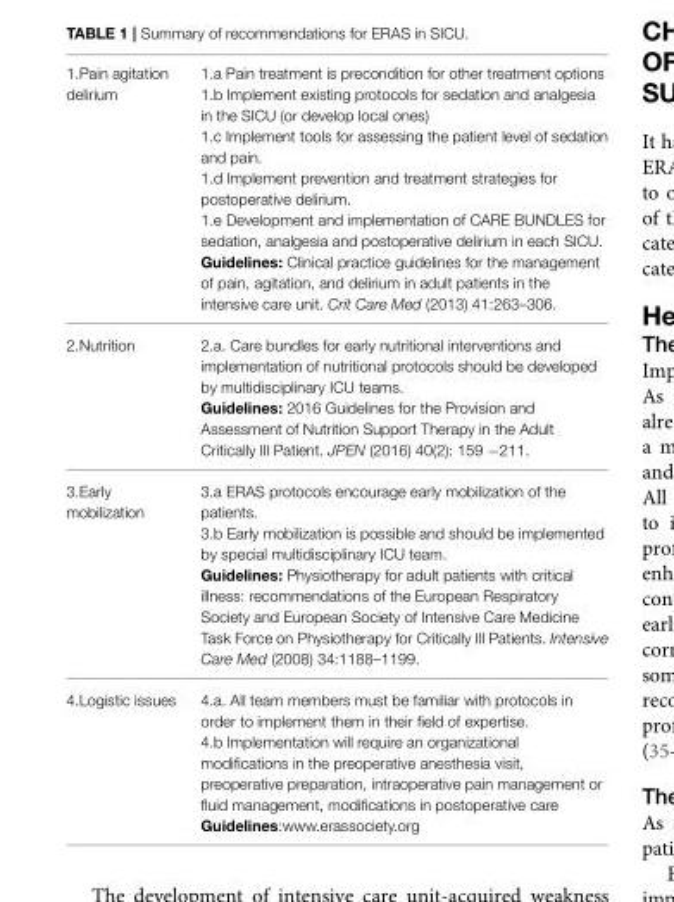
<table><tbody><tr><td>1.Pain agitation delirium</td><td>1.a Pain treatment is precondition for other treatment options 1.b Implement existing protocols for sedation and analgesia in the SICU (or develop local ones) 1.c Implement tools for assessing the patient level of sedation and pain. 1.d Implement prevention and treatment strategies for postoperative delirium. 1.e Development and implementation of CARE BUNDLES for sedation, analgesia and postoperative delirium in each SICU. Guidelines: Clinical practice guidelines for the management of pain, agitation, and delirium in adult patients in the intensive care unit. Crit Care Med (2013) 41:263–306.</td></tr><tr><td>2.Nutrition</td><td>2.a. Care bundles for early nutritional interventions and implementation of nutritional protocols should be developed by multidisciplinary ICU teams. Guidelines: 2016 Guidelines for the Provision and Assessment of Nutrition Support Therapy in the Adult Critically Ill Patient. JPEN (2016) 40(2): 159 −211.</td></tr><tr><td>3.Early mobilization</td><td>3.a ERAS protocols encourage early mobilization of the patients. 3.b Early mobilization is possible and should be implemented by special multidisciplinary ICU team. Guidelines: Physiotherapy for adult patients with critical illness: recommendations of the European Respiratory Society and European Society of Intensive Care Medicine Task Force on Physiotherapy for Critically Ill Patients. Intensive Care Med (2008) 34:1188–1199.</td></tr><tr><td>4.Logistic issues</td><td>4.a. All team members must be familiar with protocols in order to implement them in their field of expertise. 4.b Implementation will require an organizational modifications in the preoperative anesthesia visit, preoperative preparation, intraoperative pain management or fluid management, modifications in postoperative care Guidelines:www.erassociety.org</td></tr></tbody></table>